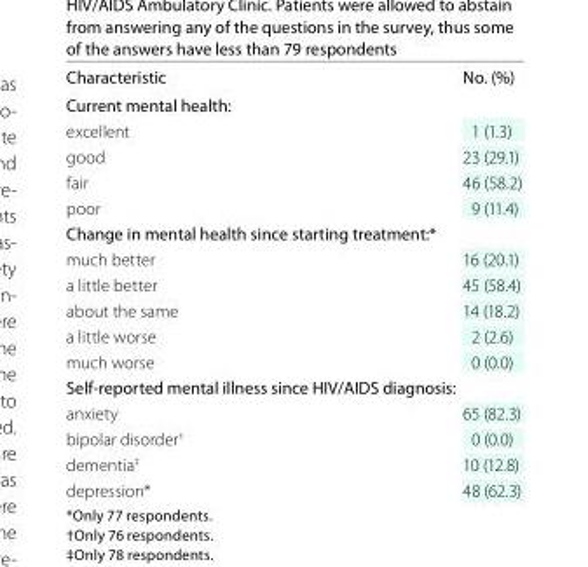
<table><thead><tr><td>Characteristic</td><td>no. (%)</td></tr></thead><tbody><tr><td colspan="2">Current mental health:</td></tr><tr><td>excellent</td><td>1 (1.3)</td></tr><tr><td>good</td><td>23 (29.1)</td></tr><tr><td>fair</td><td>46 (58.2)</td></tr><tr><td>poor</td><td>9 (11.4)</td></tr><tr><td colspan="2">Change in mental health since starting treatment:*</td></tr><tr><td>much better</td><td>16 (20.1)</td></tr><tr><td>a little better</td><td>45 (58.4)</td></tr><tr><td>about the same</td><td>14 (18.2)</td></tr><tr><td>a little worse</td><td>2 (2.6)</td></tr><tr><td>much worse</td><td>0 (0.0)</td></tr><tr><td colspan="2">Self-reported mental illness since HIV/AIDS diagnosis:</td></tr><tr><td>anxiety</td><td>65 (82.3)</td></tr><tr><td>bipolar disorder<sup>†</sup></td><td>0 (0.0)</td></tr><tr><td>dementia<sup>‡</sup></td><td>10 (12.8)</td></tr><tr><td>depression*</td><td>48 (62.3)</td></tr></tbody></table>